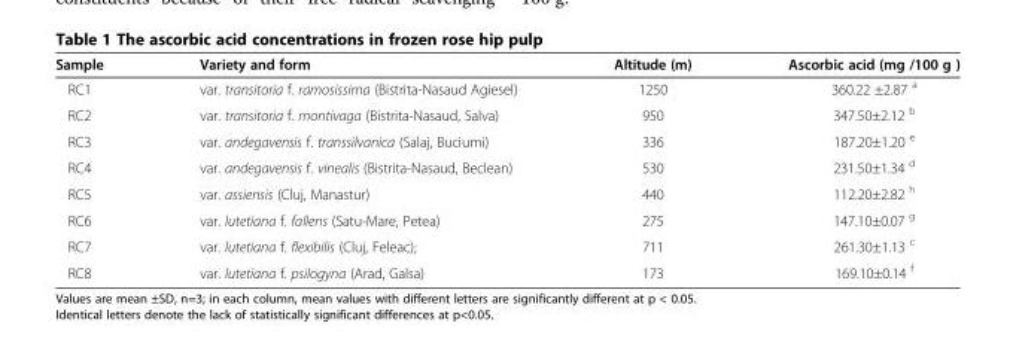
<table><thead><tr><td>Sample</td><td>Variety and form</td><td>Altitude (m)</td><td>Ascorbic acid (mg /100 g )</td></tr></thead><tbody><tr><td>RC1</td><td>var. transitoria f. ramosissima (Bistrita-Nasaud Agiesel)</td><td>1250</td><td>360.22 ±2.87 <sup>a</sup></td></tr><tr><td>RC2</td><td>var. transitoria f. montivaga (Bistrita-Nasaud, Salva)</td><td>950</td><td>347.50±2.12 <sup>b</sup></td></tr><tr><td>RC3</td><td>var. andegavensis f. transsilvanica (Salaj, Buciumi)</td><td>336</td><td>187.20±1.20 <sup>e</sup></td></tr><tr><td>RC4</td><td>var. andegavensis f. vinealis (Bistrita-Nasaud, Beclean)</td><td>530</td><td>231.50±1.34 <sup>d</sup></td></tr><tr><td>RC5</td><td>var. assiensis (Cluj, Manastur)</td><td>440</td><td>112.20±2.82 <sup>h</sup></td></tr><tr><td>RC6</td><td>var. lutetiana f. fallens (Satu-Mare, Petea)</td><td>275</td><td>147.10±0.07 <sup>g</sup></td></tr><tr><td>RC7</td><td>var. lutetiana f. flexibilis (Cluj, Feleac);</td><td>711</td><td>261.30±1.13 <sup>c</sup></td></tr><tr><td>RC8</td><td>var. lutetiana f. psilogyna (Arad, Galsa)</td><td>173</td><td>169.10±0.14 <sup>f</sup></td></tr></tbody></table>